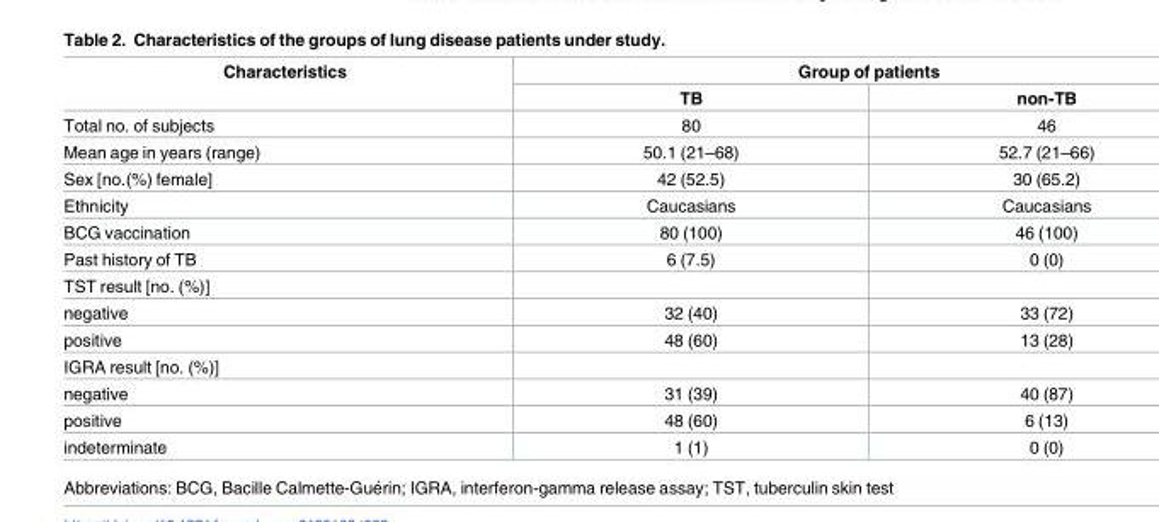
<table><thead><tr><td rowspan="2">Characteristics</td><td colspan="2">Group of patients</td></tr><tr><td>TB</td><td>non-TB</td></tr></thead><tbody><tr><td>Total no. of subjects</td><td>80</td><td>46</td></tr><tr><td>Mean age in years (range)</td><td>50.1 (21–68)</td><td>52.7 (21–66)</td></tr><tr><td>Sex [no.(%) female]</td><td>42 (52.5)</td><td>30 (65.2)</td></tr><tr><td>Ethnicity</td><td>Caucasians</td><td>Caucasians</td></tr><tr><td>BCG vaccination</td><td>80 (100)</td><td>46 (100)</td></tr><tr><td>Past history of TB</td><td>6 (7.5)</td><td>0 (0)</td></tr><tr><td colspan="3">TST result [no. (%)]</td></tr><tr><td>negative</td><td>32 (40)</td><td>33 (72)</td></tr><tr><td>positive</td><td>48 (60)</td><td>13 (28)</td></tr><tr><td colspan="3">IGRA result [no. (%)]</td></tr><tr><td>negative</td><td>31 (39)</td><td>40 (87)</td></tr><tr><td>positive</td><td>48 (60)</td><td>6 (13)</td></tr><tr><td>indeterminate</td><td>1 (1)</td><td>0 (0)</td></tr></tbody></table>